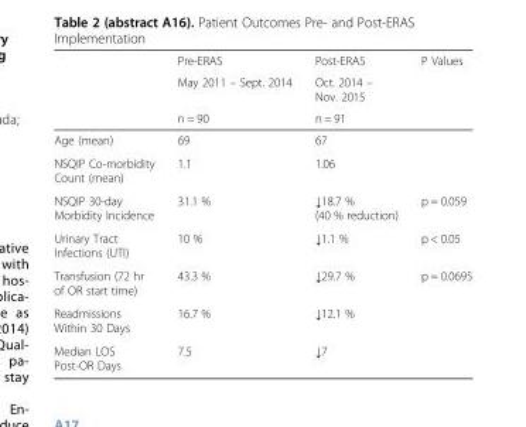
<table><thead><tr><td rowspan="3"></td><td rowspan="3">Pre-ERAS May 2011 – Sept. 2014 n = 90</td><td rowspan="3">Post-ERAS Oct. 2014 – Nov. 2015 n = 91</td><td rowspan="3">P Values</td></tr><tr></tr><tr></tr></thead><tbody><tr><td>Age (mean)</td><td>69</td><td>67</td><td></td></tr><tr><td>NSQIP Co-morbidity Count (mean)</td><td>1.1</td><td>1.06</td><td></td></tr><tr><td>NSQIP 30-day Morbidity Incidence</td><td>31.1 %</td><td>↓18.7 % (40 % reduction)</td><td>p = 0.059</td></tr><tr><td>Urinary Tract Infections (UTI)</td><td>10 %</td><td>↓1.1 %</td><td>p &lt; 0.05</td></tr><tr><td>Transfusion (72 hr of OR start time)</td><td>43.3 %</td><td>↓29.7 %</td><td>p = 0.0695</td></tr><tr><td>Readmissions Within 30 Days</td><td>16.7 %</td><td>↓12.1 %</td><td></td></tr><tr><td>Median LOS Post-OR Days</td><td>7.5</td><td>↓7</td><td></td></tr></tbody></table>